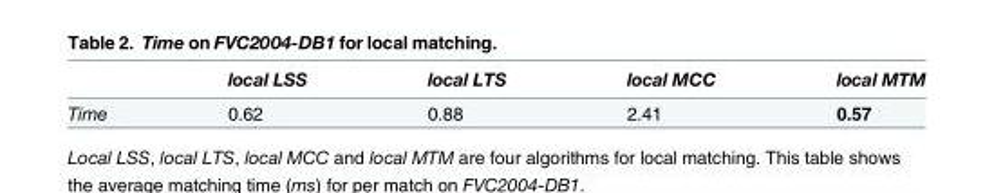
<table><thead><tr><td></td><td>local LSS</td><td>local LTS</td><td>local MCC</td><td>local MTM</td></tr></thead><tbody><tr><td>Time</td><td>0.62</td><td>0.88</td><td>2.41</td><td>0.57</td></tr></tbody></table>